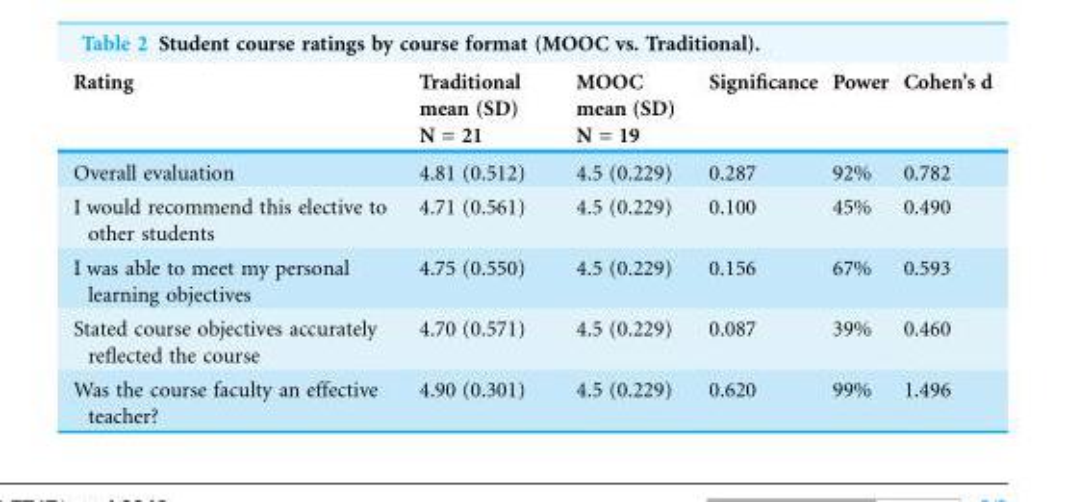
<table><thead><tr><td rowspan="2">Rating</td><td rowspan="2">Traditional mean (SD) N = 21</td><td rowspan="2">MOOC mean (SD) N = 19</td><td rowspan="2">Significance</td><td rowspan="2">Power</td><td rowspan="2">Cohen’s d</td></tr><tr></tr></thead><tbody><tr><td>Overall evaluation</td><td>4.81 (0.512)</td><td>4.5 (0.229)</td><td>0.287</td><td>92%</td><td>0.782</td></tr><tr><td>I would recommend this elective to other students</td><td>4.71 (0.561)</td><td>4.5 (0.229)</td><td>0.100</td><td>45%</td><td>0.490</td></tr><tr><td>I was able to meet my personal learning objectives</td><td>4.75 (0.550)</td><td>4.5 (0.229)</td><td>0.156</td><td>67%</td><td>0.593</td></tr><tr><td>Stated course objectives accurately reflected the course</td><td>4.70 (0.571)</td><td>4.5 (0.229)</td><td>0.087</td><td>39%</td><td>0.460</td></tr><tr><td>Was the course faculty an effective teacher?</td><td>4.90 (0.301)</td><td>4.5 (0.229)</td><td>0.620</td><td>99%</td><td>1.496</td></tr></tbody></table>